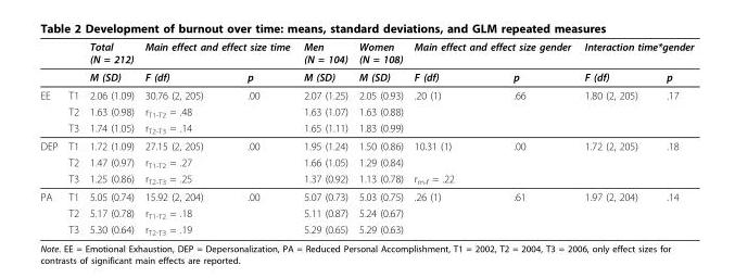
<table><thead><tr><td rowspan="2"></td><td rowspan="2"></td><td rowspan="2">Total (N = 212) M (SD)</td><td colspan="2">Main effect and effect size time</td><td rowspan="2">Men (N = 104) M (SD)</td><td rowspan="2">Women (N = 108) M (SD)</td><td colspan="2">Main effect and effect size gender</td><td colspan="2">Interaction time*gender</td></tr><tr><td>F (df)</td><td>p</td><td>F (df)</td><td>p</td><td>F (df)</td><td>p</td></tr></thead><tbody><tr><td rowspan="3">EE</td><td>T1</td><td>2.06 (1.09)</td><td>30.76 (2, 205)</td><td>.00</td><td>2.07 (1.25)</td><td>2.05 (0.93)</td><td>.20 (1)</td><td>.66</td><td>1.80 (2, 205)</td><td>.17</td></tr><tr><td>T2</td><td>1.63 (0.98)</td><td>r<sub>T1-T2</sub> = .48</td><td></td><td>1.63 (1.07)</td><td>1.63 (0.88)</td><td></td><td></td><td></td><td></td></tr><tr><td>T3</td><td>1.74 (1.05)</td><td>r<sub>T2-T3</sub> = .14</td><td></td><td>1.65 (1.11)</td><td>1.83 (0.99)</td><td></td><td></td><td></td><td></td></tr><tr><td rowspan="3">DEP</td><td>T1</td><td>1.72 (1.09)</td><td>27.15 (2, 205)</td><td>.00</td><td>1.95 (1.24)</td><td>1.50 (0.86)</td><td>10.31 (1)</td><td>.00</td><td>1.72 (2, 205)</td><td>.18</td></tr><tr><td>T2</td><td>1.47 (0.97)</td><td>r<sub>T1-T2</sub> = .27</td><td></td><td>1.66 (1.05)</td><td>1.29 (0.84)</td><td></td><td></td><td></td><td></td></tr><tr><td>T3</td><td>1.25 (0.86)</td><td>r<sub>T2-T3</sub> = .25</td><td></td><td>1.37 (0.92)</td><td>1.13 (0.78)</td><td>r<sub>m-f</sub> = .22</td><td></td><td></td><td></td></tr><tr><td rowspan="3">PA</td><td>T1</td><td>5.05 (0.74)</td><td>15.92 (2, 204)</td><td>.00</td><td>5.07 (0.73)</td><td>5.03 (0.75)</td><td>.26 (1)</td><td>.61</td><td>1.97 (2, 204)</td><td>.14</td></tr><tr><td>T2</td><td>5.17 (0.78)</td><td>r<sub>T1-T2</sub> = .18</td><td></td><td>5.11 (0.87)</td><td>5.24 (0.67)</td><td></td><td></td><td></td><td></td></tr><tr><td>T3</td><td>5.30 (0.64)</td><td>r<sub>T2-T3</sub> = .19</td><td></td><td>5.29 (0.65)</td><td>5.29 (0.63)</td><td></td><td></td><td></td><td></td></tr></tbody></table>